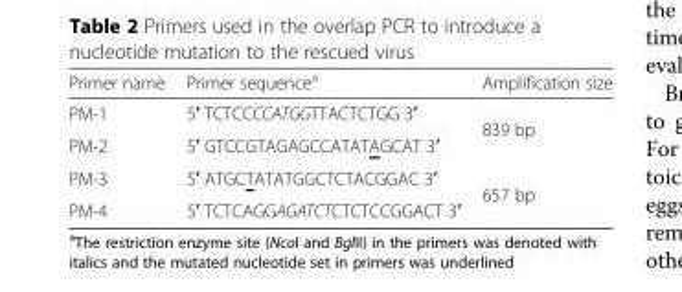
<table><thead><tr><td>Primer name</td><td>Primer sequence<sup>a</sup></td><td>Amplification size</td></tr></thead><tbody><tr><td>PM-1</td><td>5′ TCTCCCCATGGTTACTCTGG 3′</td><td rowspan="2">839 bp</td></tr><tr><td>PM-2</td><td>5′ GTCCGTAGAGCCATATAGCAT 3′</td></tr><tr><td>PM-3</td><td>5′ ATGCTATATGGCTCTACGGAC 3′</td><td rowspan="2">657 bp</td></tr><tr><td>PM-4</td><td>5′ TCTCAGGAGATCTCTCTCCGGACT 3′</td></tr></tbody></table>